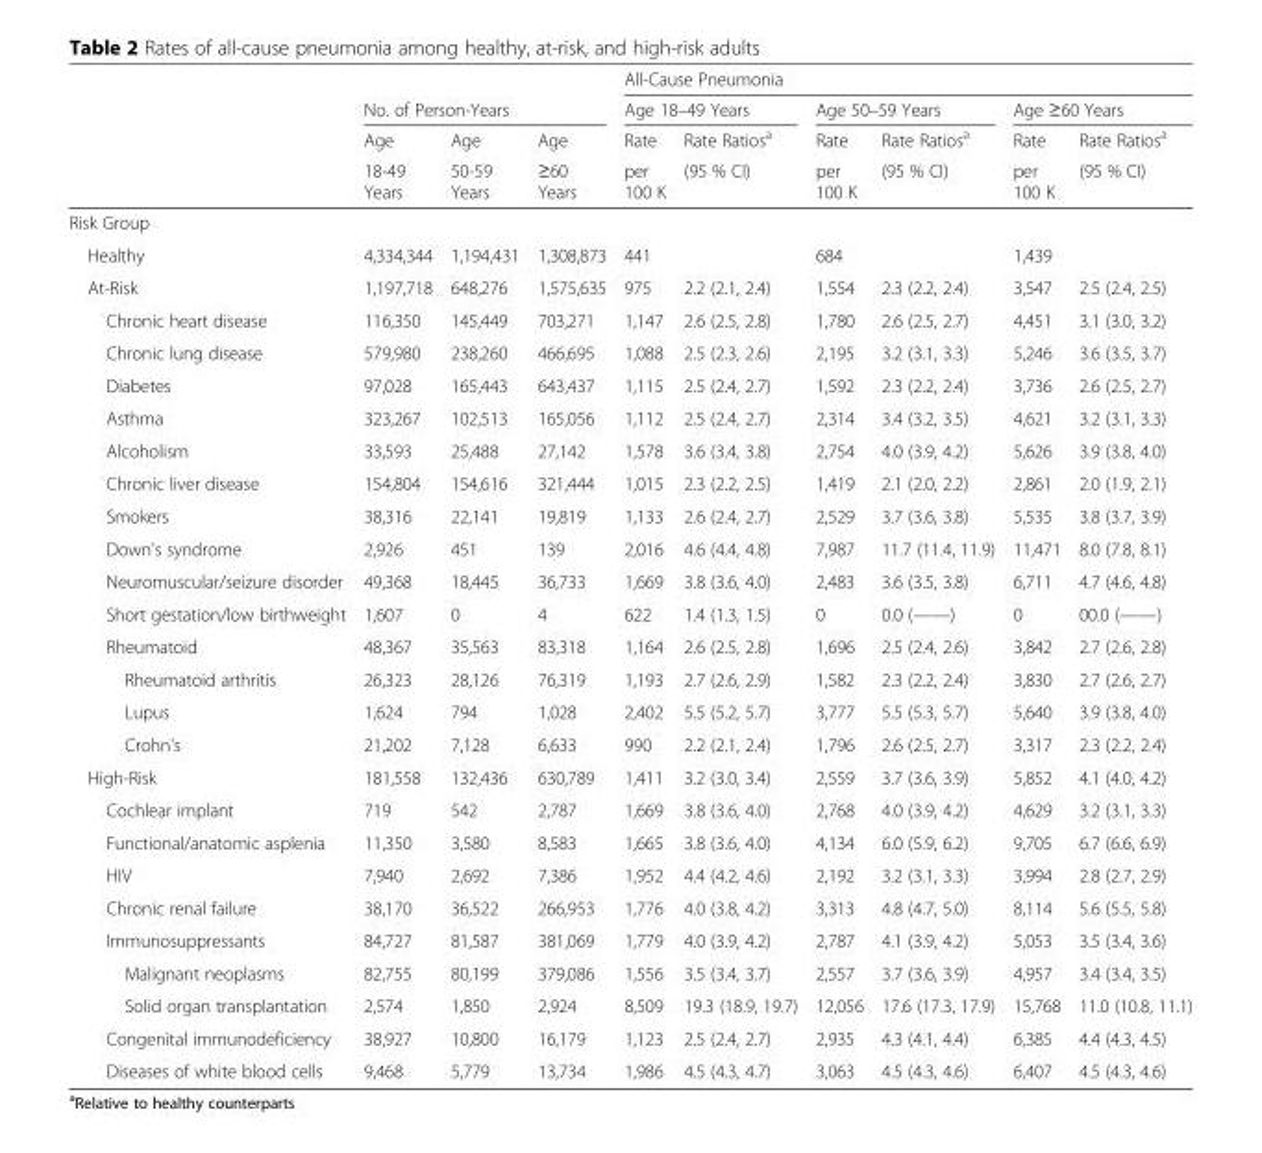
<table><thead><tr><td rowspan="4"></td><td></td><td></td><td></td><td colspan="6">All-Cause Pneumonia</td></tr><tr><td colspan="3">No. of Person-Years</td><td colspan="2">Age 18–49 Years</td><td colspan="2">Age 50–59 Years</td><td colspan="2">Age ≥60 Years</td></tr><tr><td rowspan="2">Age 18-49 Years</td><td rowspan="2">Age 50-59 Years</td><td rowspan="2">Age ≥60 Years</td><td rowspan="2">Rate per 100 K</td><td rowspan="2">Rate Ratios<sup>a</sup> (95 % CI)</td><td rowspan="2">Rate per 100 K</td><td rowspan="2">Rate Ratios<sup>a</sup> (95 % CI)</td><td rowspan="2">Rate per 100 K</td><td rowspan="2">Rate Ratios<sup>a</sup> (95 % CI)</td></tr><tr></tr></thead><tbody><tr><td colspan="10">Risk Group</td></tr><tr><td>Healthy</td><td>4,334,344</td><td>1,194,431</td><td>1,308,873</td><td>441</td><td></td><td>684</td><td></td><td>1,439</td><td></td></tr><tr><td>At-Risk</td><td>1,197,718</td><td>648,276</td><td>1,575,635</td><td>975</td><td>2.2 (2.1, 2.4)</td><td>1,554</td><td>2.3 (2.2, 2.4)</td><td>3,547</td><td>2.5 (2.4, 2.5)</td></tr><tr><td>Chronic heart disease</td><td>116,350</td><td>145,449</td><td>703,271</td><td>1,147</td><td>2.6 (2.5, 2.8)</td><td>1,780</td><td>2.6 (2.5, 2.7)</td><td>4,451</td><td>3.1 (3.0, 3.2)</td></tr><tr><td>Chronic lung disease</td><td>579,980</td><td>238,260</td><td>466,695</td><td>1,088</td><td>2.5 (2.3, 2.6)</td><td>2,195</td><td>3.2 (3.1, 3.3)</td><td>5,246</td><td>3.6 (3.5, 3.7)</td></tr><tr><td>Diabetes</td><td>97,028</td><td>165,443</td><td>643,437</td><td>1,115</td><td>2.5 (2.4, 2.7)</td><td>1,592</td><td>2.3 (2.2, 2.4)</td><td>3,736</td><td>2.6 (2.5, 2.7)</td></tr><tr><td>Asthma</td><td>323,267</td><td>102,513</td><td>165,056</td><td>1,112</td><td>2.5 (2.4, 2.7)</td><td>2,314</td><td>3.4 (3.2, 3.5)</td><td>4,621</td><td>3.2 (3.1, 3.3)</td></tr><tr><td>Alcoholism</td><td>33,593</td><td>25,488</td><td>27,142</td><td>1,578</td><td>3.6 (3.4, 3.8)</td><td>2,754</td><td>4.0 (3.9, 4.2)</td><td>5,626</td><td>3.9 (3.8, 4.0)</td></tr><tr><td>Chronic liver disease</td><td>154,804</td><td>154,616</td><td>321,444</td><td>1,015</td><td>2.3 (2.2, 2.5)</td><td>1,419</td><td>2.1 (2.0, 2.2)</td><td>2,861</td><td>2.0 (1.9, 2.1)</td></tr><tr><td>Smokers</td><td>38,316</td><td>22,141</td><td>19,819</td><td>1,133</td><td>2.6 (2.4, 2.7)</td><td>2,529</td><td>3.7 (3.6, 3.8)</td><td>5,535</td><td>3.8 (3.7, 3.9)</td></tr><tr><td>Down&#x27;s syndrome</td><td>2,926</td><td>451</td><td>139</td><td>2,016</td><td>4.6 (4.4, 4.8)</td><td>7,987</td><td>11.7 (11.4, 11.9)</td><td>11,471</td><td>8.0 (7.8, 8.1)</td></tr><tr><td>Neuromuscular/seizure disorder</td><td>49,368</td><td>18,445</td><td>36,733</td><td>1,669</td><td>3.8 (3.6, 4.0)</td><td>2,483</td><td>3.6 (3.5, 3.8)</td><td>6,711</td><td>4.7 (4.6, 4.8)</td></tr><tr><td>Short gestation/low birthweight</td><td>1,607</td><td>0</td><td>4</td><td>622</td><td>1.4 (1.3, 1.5)</td><td>0</td><td>0.0 (——)</td><td>0</td><td>00.0 (——)</td></tr><tr><td>Rheumatoid</td><td>48,367</td><td>35,563</td><td>83,318</td><td>1,164</td><td>2.6 (2.5, 2.8)</td><td>1,696</td><td>2.5 (2.4, 2.6)</td><td>3,842</td><td>2.7 (2.6, 2.8)</td></tr><tr><td>Rheumatoid arthritis</td><td>26,323</td><td>28,126</td><td>76,319</td><td>1,193</td><td>2.7 (2.6, 2.9)</td><td>1,582</td><td>2.3 (2.2, 2.4)</td><td>3,830</td><td>2.7 (2.6, 2.7)</td></tr><tr><td>Lupus</td><td>1,624</td><td>794</td><td>1,028</td><td>2,402</td><td>5.5 (5.2, 5.7)</td><td>3,777</td><td>5.5 (5.3, 5.7)</td><td>5,640</td><td>3.9 (3.8, 4.0)</td></tr><tr><td>Crohn&#x27;s</td><td>21,202</td><td>7,128</td><td>6,633</td><td>990</td><td>2.2 (2.1, 2.4)</td><td>1,796</td><td>2.6 (2.5, 2.7)</td><td>3,317</td><td>2.3 (2.2, 2.4)</td></tr><tr><td>High-Risk</td><td>181,558</td><td>132,436</td><td>630,789</td><td>1,411</td><td>3.2 (3.0, 3.4)</td><td>2,559</td><td>3.7 (3.6, 3.9)</td><td>5,852</td><td>4.1 (4.0, 4.2)</td></tr><tr><td>Cochlear implant</td><td>719</td><td>542</td><td>2,787</td><td>1,669</td><td>3.8 (3.6, 4.0)</td><td>2,768</td><td>4.0 (3.9, 4.2)</td><td>4,629</td><td>3.2 (3.1, 3.3)</td></tr><tr><td>Functional/anatomic asplenia</td><td>11,350</td><td>3,580</td><td>8,583</td><td>1,665</td><td>3.8 (3.6, 4.0)</td><td>4,134</td><td>6.0 (5.9, 6.2)</td><td>9,705</td><td>6.7 (6.6, 6.9)</td></tr><tr><td>HIV</td><td>7,940</td><td>2,692</td><td>7,386</td><td>1,952</td><td>4.4 (4.2, 4.6)</td><td>2,192</td><td>3.2 (3.1, 3.3)</td><td>3,994</td><td>2.8 (2.7, 2.9)</td></tr><tr><td>Chronic renal failure</td><td>38,170</td><td>36,522</td><td>266,953</td><td>1,776</td><td>4.0 (3.8, 4.2)</td><td>3,313</td><td>4.8 (4.7, 5.0)</td><td>8,114</td><td>5.6 (5.5, 5.8)</td></tr><tr><td>Immunosuppressants</td><td>84,727</td><td>81,587</td><td>381,069</td><td>1,779</td><td>4.0 (3.9, 4.2)</td><td>2,787</td><td>4.1 (3.9, 4.2)</td><td>5,053</td><td>3.5 (3.4, 3.6)</td></tr><tr><td>Malignant neoplasms</td><td>82,755</td><td>80,199</td><td>379,086</td><td>1,556</td><td>3.5 (3.4, 3.7)</td><td>2,557</td><td>3.7 (3.6, 3.9)</td><td>4,957</td><td>3.4 (3.4, 3.5)</td></tr><tr><td>Solid organ transplantation</td><td>2,574</td><td>1,850</td><td>2,924</td><td>8,509</td><td>19.3 (18.9, 19.7)</td><td>12,056</td><td>17.6 (17.3, 17.9)</td><td>15,768</td><td>11.0 (10.8, 11.1)</td></tr><tr><td>Congenital immunodeficiency</td><td>38,927</td><td>10,800</td><td>16,179</td><td>1,123</td><td>2.5 (2.4, 2.7)</td><td>2,935</td><td>4.3 (4.1, 4.4)</td><td>6,385</td><td>4.4 (4.3, 4.5)</td></tr><tr><td>Diseases of white blood cells</td><td>9,468</td><td>5,779</td><td>13,734</td><td>1,986</td><td>4.5 (4.3, 4.7)</td><td>3,063</td><td>4.5 (4.3, 4.6)</td><td>6,407</td><td>4.5 (4.3, 4.6)</td></tr></tbody></table>